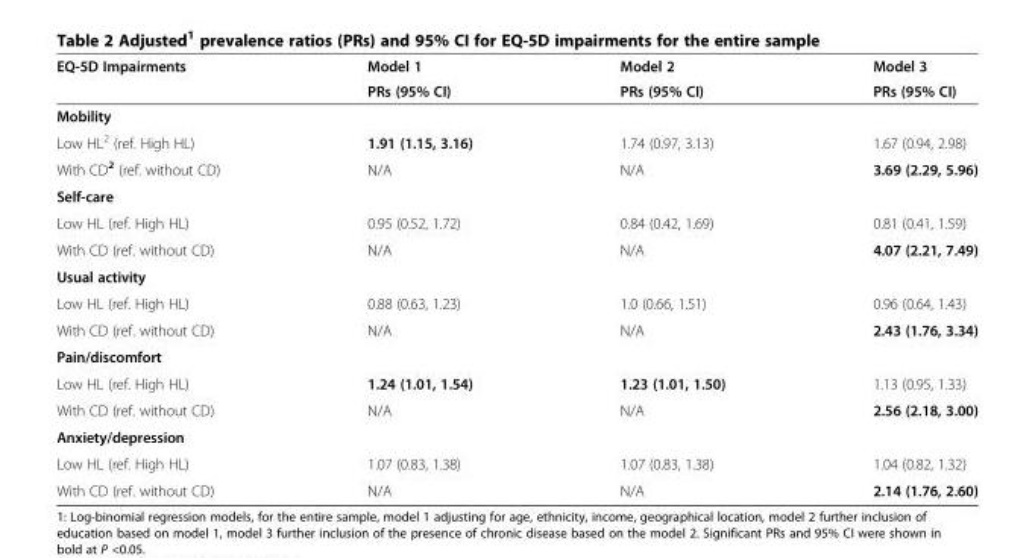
<table><thead><tr><td rowspan="2">EQ-5D Impairments</td><td rowspan="2">Model 1 PRs (95% CI)</td><td rowspan="2">Model 2 PRs (95% CI)</td><td rowspan="2">Model 3 PRs (95% CI)</td></tr><tr></tr></thead><tbody><tr><td colspan="4">Mobility</td></tr><tr><td>Low HL<sup>2</sup> (ref. High HL)</td><td>1.91 (1.15, 3.16)</td><td>1.74 (0.97, 3.13)</td><td>1.67 (0.94, 2.98)</td></tr><tr><td>With CD<sup>2</sup> (ref. without CD)</td><td>N/A</td><td>N/A</td><td>3.69 (2.29, 5.96)</td></tr><tr><td colspan="4">Self-care</td></tr><tr><td>Low HL (ref. High HL)</td><td>0.95 (0.52, 1.72)</td><td>0.84 (0.42, 1.69)</td><td>0.81 (0.41, 1.59)</td></tr><tr><td>With CD (ref. without CD)</td><td>N/A</td><td>N/A</td><td>4.07 (2.21, 7.49)</td></tr><tr><td colspan="4">Usual activity</td></tr><tr><td>Low HL (ref. High HL)</td><td>0.88 (0.63, 1.23)</td><td>1.0 (0.66, 1.51)</td><td>0.96 (0.64, 1.43)</td></tr><tr><td>With CD (ref. without CD)</td><td>N/A</td><td>N/A</td><td>2.43 (1.76, 3.34)</td></tr><tr><td colspan="4">Pain/discomfort</td></tr><tr><td>Low HL (ref. High HL)</td><td>1.24 (1.01, 1.54)</td><td>1.23 (1.01, 1.50)</td><td>1.13 (0.95, 1.33)</td></tr><tr><td>With CD (ref. without CD)</td><td>N/A</td><td>N/A</td><td>2.56 (2.18, 3.00)</td></tr><tr><td colspan="4">Anxiety/depression</td></tr><tr><td>Low HL (ref. High HL)</td><td>1.07 (0.83, 1.38)</td><td>1.07 (0.83, 1.38)</td><td>1.04 (0.82, 1.32)</td></tr><tr><td>With CD (ref. without CD)</td><td>N/A</td><td>N/A</td><td>2.14 (1.76, 2.60)</td></tr></tbody></table>